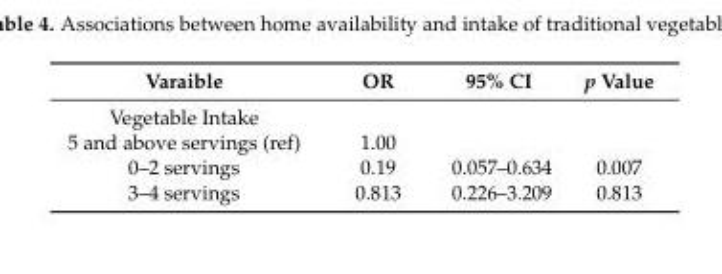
<table><thead><tr><td>Varaible</td><td>OR</td><td>95% CI</td><td>p Value</td></tr></thead><tbody><tr><td colspan="4">Vegetable Intake</td></tr><tr><td>5 and above servings (ref)</td><td>1.00</td><td></td><td></td></tr><tr><td>0–2 servings</td><td>0.19</td><td>0.057–0.634</td><td>0.007</td></tr><tr><td>3–4 servings</td><td>0.813</td><td>0.226–3.209</td><td>0.813</td></tr></tbody></table>